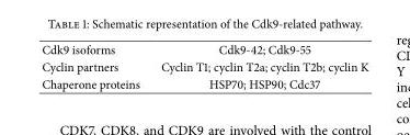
<table><tbody><tr><td>Cdk9 isoforms</td><td>Cdk9-42; Cdk9-55</td></tr><tr><td>Cyclin partners</td><td>Cyclin T1; cyclin T2a; cyclin T2b; cyclin K</td></tr><tr><td>Chaperone proteins</td><td>HSP70; HSP90; Cdc37</td></tr></tbody></table>